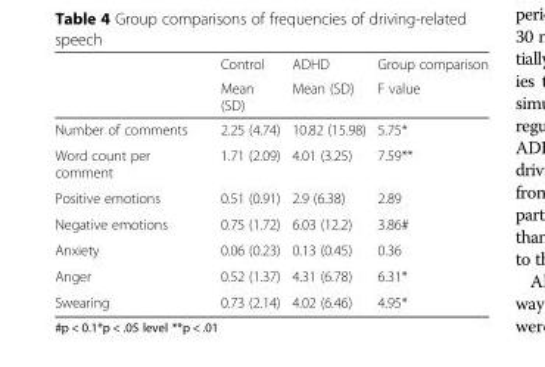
<table><thead><tr><td rowspan="2"></td><td rowspan="2">Control Mean (SD)</td><td rowspan="2">ADHD Mean (SD)</td><td rowspan="2">Group comparison F value</td></tr><tr></tr></thead><tbody><tr><td>Number of comments</td><td>2.25 (4.74)</td><td>10.82 (15.98)</td><td>5.75*</td></tr><tr><td>Word count per comment</td><td>1.71 (2.09)</td><td>4.01 (3.25)</td><td>7.59**</td></tr><tr><td>Positive emotions</td><td>0.51 (0.91)</td><td>2.9 (6.38)</td><td>2.89</td></tr><tr><td>Negative emotions</td><td>0.75 (1.72)</td><td>6.03 (12.2)</td><td>3.86#</td></tr><tr><td>Anxiety</td><td>0.06 (0.23)</td><td>0.13 (0.45)</td><td>0.36</td></tr><tr><td>Anger</td><td>0.52 (1.37)</td><td>4.31 (6.78)</td><td>6.31*</td></tr><tr><td>Swearing</td><td>0.73 (2.14)</td><td>4.02 (6.46)</td><td>4.95*</td></tr></tbody></table>